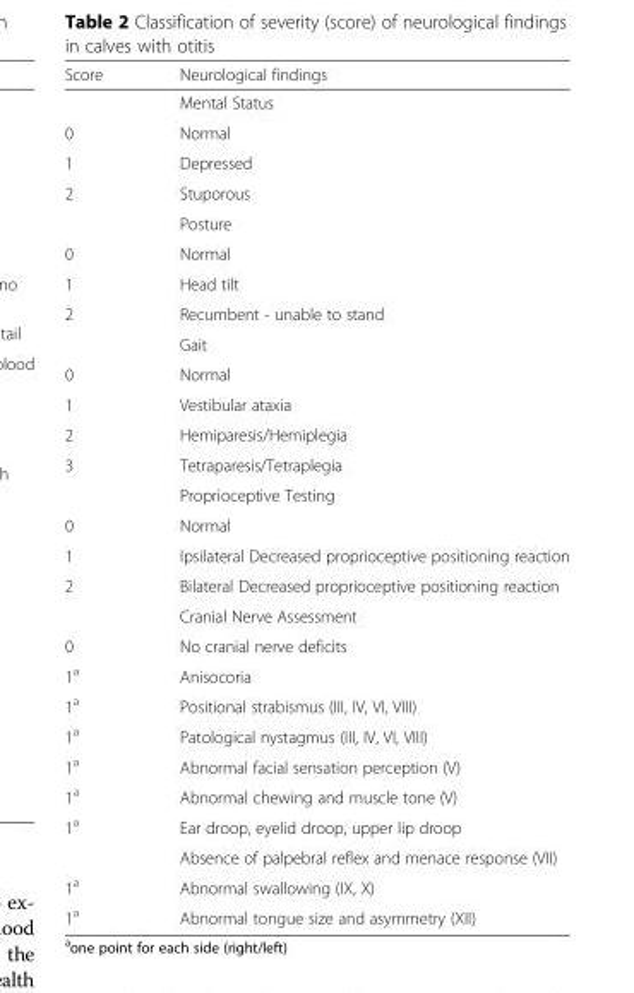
<table><thead><tr><td>Score</td><td>Neurological findings</td></tr></thead><tbody><tr><td></td><td>Mental Status</td></tr><tr><td>0</td><td>Normal</td></tr><tr><td>1</td><td>Depressed</td></tr><tr><td rowspan="2">2</td><td>Stuporous</td></tr><tr><td>Posture</td></tr><tr><td>0</td><td>Normal</td></tr><tr><td>1</td><td>Head tilt</td></tr><tr><td rowspan="2">2</td><td>Recumbent - unable to stand</td></tr><tr><td>Gait</td></tr><tr><td>0</td><td>Normal</td></tr><tr><td>1</td><td>Vestibular ataxia</td></tr><tr><td>2</td><td>Hemiparesis/Hemiplegia</td></tr><tr><td rowspan="2">3</td><td>Tetraparesis/Tetraplegia</td></tr><tr><td>Proprioceptive Testing</td></tr><tr><td>0</td><td>Normal</td></tr><tr><td>1</td><td>Ipsilateral Decreased proprioceptive positioning reaction</td></tr><tr><td rowspan="2">2</td><td>Bilateral Decreased proprioceptive positioning reaction</td></tr><tr><td>Cranial Nerve Assessment</td></tr><tr><td>0</td><td>No cranial nerve deficits</td></tr><tr><td>1<sup>a</sup></td><td>Anisocoria</td></tr><tr><td>1<sup>a</sup></td><td>Positional strabismus (III, IV, VI, VIII)</td></tr><tr><td>1<sup>a</sup></td><td>Patological nystagmus (III, IV, VI, VIII)</td></tr><tr><td>1<sup>a</sup></td><td>Abnormal facial sensation perception (V)</td></tr><tr><td>1<sup>a</sup></td><td>Abnormal chewing and muscle tone (V)</td></tr><tr><td rowspan="2">1<sup>a</sup></td><td>Ear droop, eyelid droop, upper lip droop</td></tr><tr><td>Absence of palpebral reflex and menace response (VII)</td></tr><tr><td>1<sup>a</sup></td><td>Abnormal swallowing (IX, X)</td></tr><tr><td>1<sup>a</sup></td><td>Abnormal tongue size and asymmetry (XII)</td></tr></tbody></table>